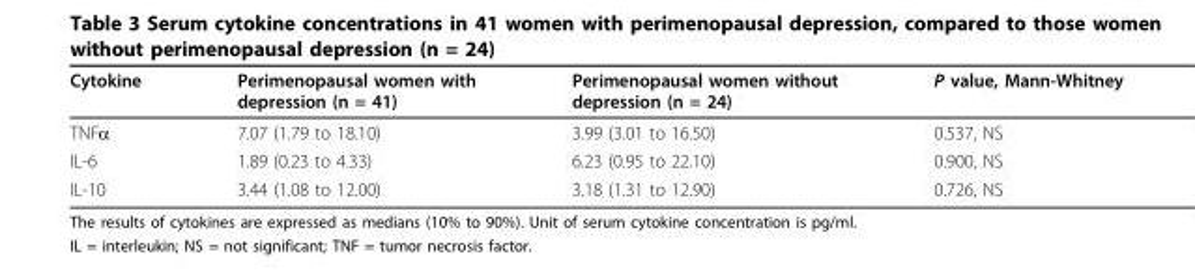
<table><thead><tr><td>Cytokine</td><td>Perimenopausal women with depression (n = 41)</td><td>Perimenopausal women without depression (n = 24)</td><td>P value, Mann-Whitney</td></tr></thead><tbody><tr><td>TNFα</td><td>7.07 (1.79 to 18.10)</td><td>3.99 (3.01 to 16.50)</td><td>0.537, NS</td></tr><tr><td>IL-6</td><td>1.89 (0.23 to 4.33)</td><td>6.23 (0.95 to 22.10)</td><td>0.900, NS</td></tr><tr><td>IL-10</td><td>3.44 (1.08 to 12.00)</td><td>3.18 (1.31 to 12.90)</td><td>0.726, NS</td></tr></tbody></table>